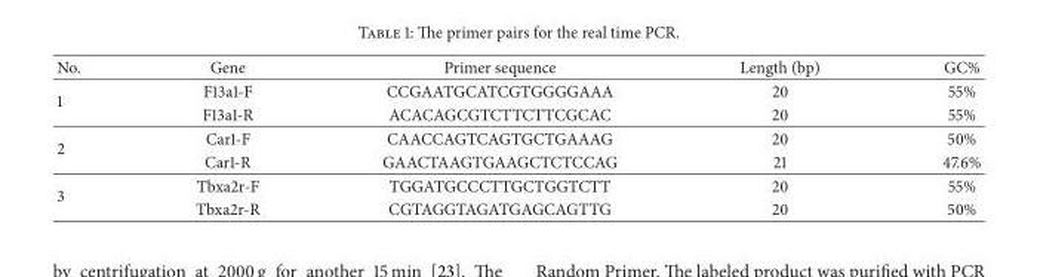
<table><thead><tr><td>No.</td><td>Gene</td><td>Primer sequence</td><td>Length (bp)</td><td>GC%</td></tr></thead><tbody><tr><td rowspan="2">1</td><td>F13a1-F</td><td>CCGAATGCATCGTGGGGAAA</td><td>20</td><td>55%</td></tr><tr><td>F13a1-R</td><td>ACACAGCGTCTTCTTCGCAC</td><td>20</td><td>55%</td></tr><tr><td rowspan="2">2</td><td>Car1-F</td><td>CAACCAGTCAGTGCTGAAAG</td><td>20</td><td>50%</td></tr><tr><td>Car1-R</td><td>GAACTAAGTGAAGCTCTCCAG</td><td>21</td><td>47.6%</td></tr><tr><td rowspan="2">3</td><td>Tbxa2r-F</td><td>TGGATGCCCTTGCTGGTCTT</td><td>20</td><td>55%</td></tr><tr><td>Tbxa2r-R</td><td>CGTAGGTAGATGAGCAGTTG</td><td>20</td><td>50%</td></tr></tbody></table>